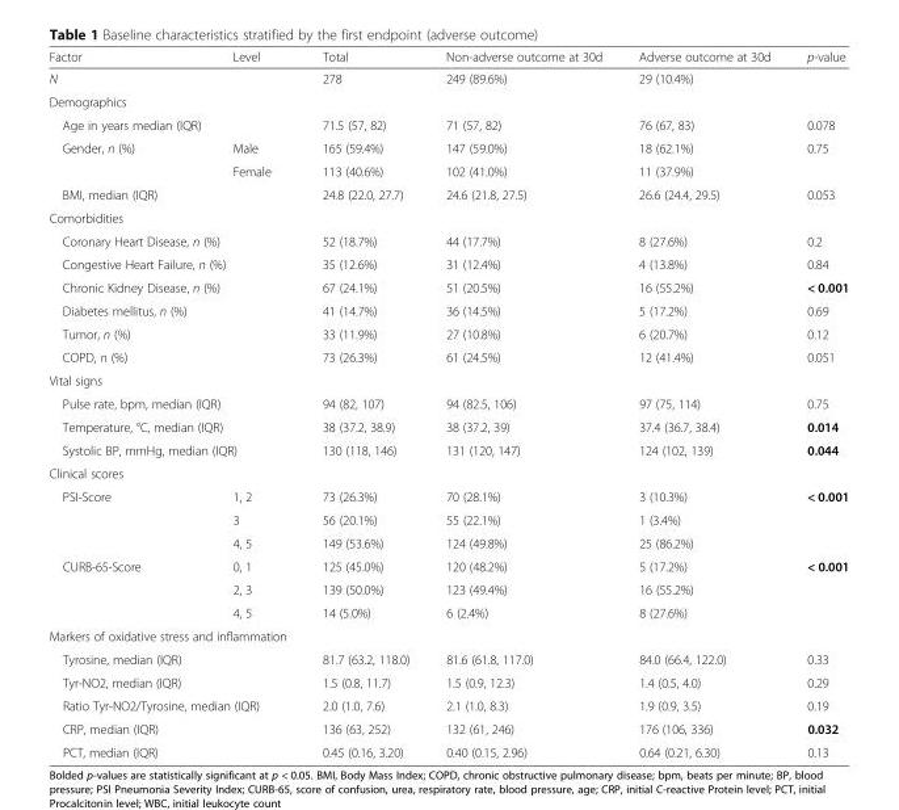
<table><thead><tr><td>Factor</td><td>Level</td><td>Total</td><td>Non-adverse outcome at 30d</td><td>Adverse outcome at 30d</td><td>p-value</td></tr></thead><tbody><tr><td>N</td><td></td><td>278</td><td>249 (89.6%)</td><td>29 (10.4%)</td><td></td></tr><tr><td colspan="6">Demographics</td></tr><tr><td colspan="2">Age in years median (IQR)</td><td>71.5 (57, 82)</td><td>71 (57, 82)</td><td>76 (67, 83)</td><td>0.078</td></tr><tr><td rowspan="2">Gender, n (%)</td><td>Male</td><td>165 (59.4%)</td><td>147 (59.0%)</td><td>18 (62.1%)</td><td>0.75</td></tr><tr><td>Female</td><td>113 (40.6%)</td><td>102 (41.0%)</td><td>11 (37.9%)</td><td></td></tr><tr><td colspan="2">BMI, median (IQR)</td><td>24.8 (22.0, 27.7)</td><td>24.6 (21.8, 27.5)</td><td>26.6 (24.4, 29.5)</td><td>0.053</td></tr><tr><td colspan="6">Comorbidities</td></tr><tr><td colspan="2">Coronary Heart Disease, n (%)</td><td>52 (18.7%)</td><td>44 (17.7%)</td><td>8 (27.6%)</td><td>0.2</td></tr><tr><td colspan="2">Congestive Heart Failure, n (%)</td><td>35 (12.6%)</td><td>31 (12.4%)</td><td>4 (13.8%)</td><td>0.84</td></tr><tr><td colspan="2">Chronic Kidney Disease, n (%)</td><td>67 (24.1%)</td><td>51 (20.5%)</td><td>16 (55.2%)</td><td>&lt; 0.001</td></tr><tr><td colspan="2">Diabetes mellitus, n (%)</td><td>41 (14.7%)</td><td>36 (14.5%)</td><td>5 (17.2%)</td><td>0.69</td></tr><tr><td colspan="2">Tumor, n (%)</td><td>33 (11.9%)</td><td>27 (10.8%)</td><td>6 (20.7%)</td><td>0.12</td></tr><tr><td colspan="2">COPD, n (%)</td><td>73 (26.3%)</td><td>61 (24.5%)</td><td>12 (41.4%)</td><td>0.051</td></tr><tr><td colspan="6">Vital signs</td></tr><tr><td colspan="2">Pulse rate, bpm, median (IQR)</td><td>94 (82, 107)</td><td>94 (82.5, 106)</td><td>97 (75, 114)</td><td>0.75</td></tr><tr><td colspan="2">Temperature, °C, median (IQR)</td><td>38 (37.2, 38.9)</td><td>38 (37.2, 39)</td><td>37.4 (36.7, 38.4)</td><td>0.014</td></tr><tr><td colspan="2">Systolic BP, mmHg, median (IQR)</td><td>130 (118, 146)</td><td>131 (120, 147)</td><td>124 (102, 139)</td><td>0.044</td></tr><tr><td colspan="6">Clinical scores</td></tr><tr><td rowspan="3">PSI-Score</td><td>1, 2</td><td>73 (26.3%)</td><td>70 (28.1%)</td><td>3 (10.3%)</td><td>&lt; 0.001</td></tr><tr><td>3</td><td>56 (20.1%)</td><td>55 (22.1%)</td><td>1 (3.4%)</td><td></td></tr><tr><td>4, 5</td><td>149 (53.6%)</td><td>124 (49.8%)</td><td>25 (86.2%)</td><td></td></tr><tr><td rowspan="3">CURB-65-Score</td><td>0, 1</td><td>125 (45.0%)</td><td>120 (48.2%)</td><td>5 (17.2%)</td><td>&lt; 0.001</td></tr><tr><td>2, 3</td><td>139 (50.0%)</td><td>123 (49.4%)</td><td>16 (55.2%)</td><td></td></tr><tr><td>4, 5</td><td>14 (5.0%)</td><td>6 (2.4%)</td><td>8 (27.6%)</td><td></td></tr><tr><td colspan="6">Markers of oxidative stress and inflammation</td></tr><tr><td>Tyrosine, median (IQR)</td><td></td><td>81.7 (63.2, 118.0)</td><td>81.6 (61.8, 117.0)</td><td>84.0 (66.4, 122.0)</td><td>0.33</td></tr><tr><td>Tyr-NO2, median (IQR)</td><td></td><td>1.5 (0.8, 11.7)</td><td>1.5 (0.9, 12.3)</td><td>1.4 (0.5, 4.0)</td><td>0.29</td></tr><tr><td colspan="2">Ratio Tyr-NO2/Tyrosine, median (IQR)</td><td>2.0 (1.0, 7.6)</td><td>2.1 (1.0, 8.3)</td><td>1.9 (0.9, 3.5)</td><td>0.19</td></tr><tr><td>CRP, median (IQR)</td><td></td><td>136 (63, 252)</td><td>132 (61, 246)</td><td>176 (106, 336)</td><td>0.032</td></tr><tr><td>PCT, median (IQR)</td><td></td><td>0.45 (0.16, 3.20)</td><td>0.40 (0.15, 2.96)</td><td>0.64 (0.21, 6.30)</td><td>0.13</td></tr></tbody></table>